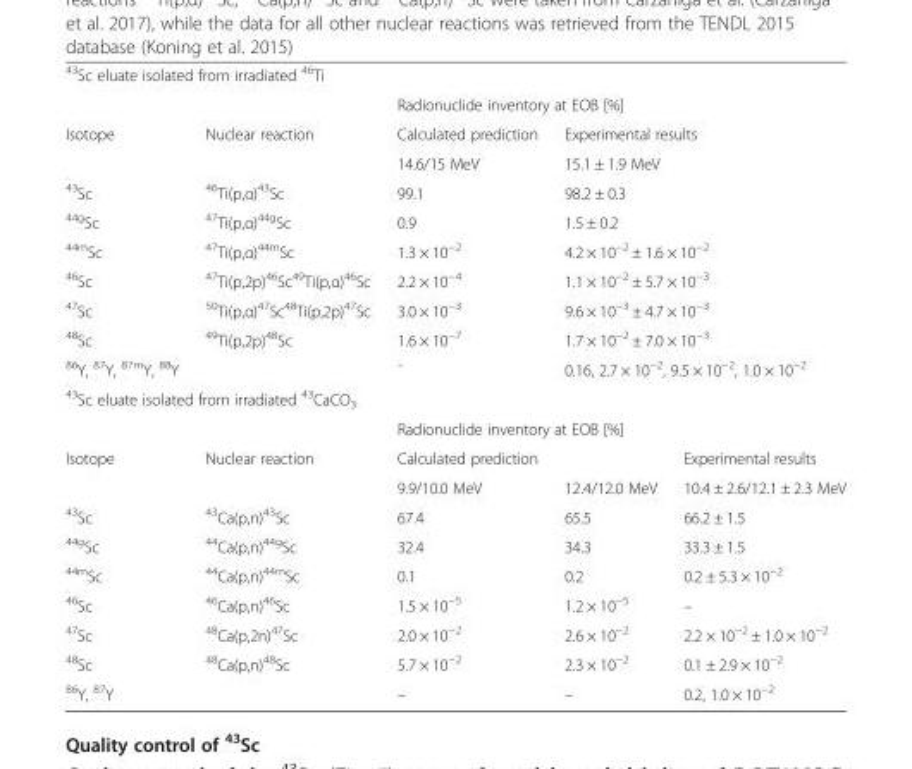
<table><tbody><tr><td colspan="5"><sup>43</sup>Sc eluate isolated from irradiated <sup>46</sup>Ti</td></tr><tr><td></td><td></td><td colspan="3">Radionuclide inventory at EOB [%]</td></tr><tr><td rowspan="2">Isotope</td><td>Nuclear reaction</td><td>Calculated prediction</td><td colspan="2">Experimental results</td></tr><tr><td></td><td>14.6/15 MeV</td><td colspan="2">15.1 ± 1.9 MeV</td></tr><tr><td><sup>43</sup>Sc</td><td><sup>46</sup>Ti(p,α)<sup>43</sup>Sc</td><td>99.1</td><td colspan="2">98.2 ± 0.3</td></tr><tr><td><sup>44g</sup>Sc</td><td><sup>47</sup>Ti(p,α)<sup>44g</sup>Sc</td><td>0.9</td><td colspan="2">1.5 ± 0.2</td></tr><tr><td><sup>44m</sup>Sc</td><td><sup>47</sup>Ti(p,α)<sup>44m</sup>Sc</td><td>1.3 × 10<sup>−2</sup></td><td colspan="2">4.2 × 10<sup>−2</sup> ± 1.6 × 10<sup>−2</sup></td></tr><tr><td><sup>46</sup>Sc</td><td><sup>47</sup>Ti(p,2p)<sup>46</sup>Sc<sup>49</sup>Ti(p,α)<sup>46</sup>Sc</td><td>2.2 × 10<sup>−4</sup></td><td colspan="2">1.1 × 10<sup>−2</sup> ± 5.7 × 10<sup>−3</sup></td></tr><tr><td><sup>47</sup>Sc</td><td><sup>50</sup>Ti(p,α)<sup>47</sup>Sc<sup>48</sup>Ti(p,2p)<sup>47</sup>Sc</td><td>3.0 × 10<sup>−3</sup></td><td colspan="2">9.6 × 10<sup>−3</sup> ± 4.7 × 10<sup>−3</sup></td></tr><tr><td><sup>48</sup>Sc</td><td><sup>49</sup>Ti(p,2p)<sup>48</sup>Sc</td><td>1.6 × 10<sup>−7</sup></td><td colspan="2">1.7 × 10<sup>−2</sup> ± 7.0 × 10<sup>−3</sup></td></tr><tr><td><sup>86</sup>Y, <sup>87</sup>Y, <sup>87m</sup>Y, <sup>88</sup>Y</td><td></td><td><sup>–</sup></td><td colspan="2">0.16, 2.7 × 10<sup>−2</sup>, 9.5 × 10<sup>−2</sup>, 1.0 × 10<sup>−2</sup></td></tr><tr><td colspan="5"><sup>43</sup>Sc eluate isolated from irradiated <sup>43</sup>CaCO<sub>3</sub></td></tr><tr><td></td><td></td><td colspan="3">Radionuclide inventory at EOB [%]</td></tr><tr><td rowspan="2">Isotope</td><td>Nuclear reaction</td><td colspan="2">Calculated prediction</td><td>Experimental results</td></tr><tr><td></td><td>9.9/10.0 MeV</td><td>12.4/12.0 MeV</td><td>10.4 ± 2.6/12.1 ± 2.3 MeV</td></tr><tr><td><sup>43</sup>Sc</td><td><sup>43</sup>Ca(p,n)<sup>43</sup>Sc</td><td>67.4</td><td>65.5</td><td>66.2 ± 1.5</td></tr><tr><td><sup>44g</sup>Sc</td><td><sup>44</sup>Ca(p,n)<sup>44g</sup>Sc</td><td>32.4</td><td>34.3</td><td>33.3 ± 1.5</td></tr><tr><td><sup>44m</sup>Sc</td><td><sup>44</sup>Ca(p,n)<sup>44m</sup>Sc</td><td>0.1</td><td>0.2</td><td>0.2 ± 5.3 × 10<sup>−2</sup></td></tr><tr><td><sup>46</sup>Sc</td><td><sup>46</sup>Ca(p,n)<sup>46</sup>Sc</td><td>1.5 × 10<sup>−5</sup></td><td>1.2 × 10<sup>−5</sup></td><td>–</td></tr><tr><td><sup>47</sup>Sc</td><td><sup>48</sup>Ca(p,2n)<sup>47</sup>Sc</td><td>2.0 × 10<sup>−2</sup></td><td>2.6 × 10<sup>−2</sup></td><td>2.2 × 10<sup>−2</sup> ± 1.0 × 10<sup>−2</sup></td></tr><tr><td><sup>48</sup>Sc</td><td><sup>48</sup>Ca(p,n)<sup>48</sup>Sc</td><td>5.7 × 10<sup>−2</sup></td><td>2.3 × 10<sup>−2</sup></td><td>0.1 ± 2.9 × 10<sup>−2</sup></td></tr><tr><td><sup>86</sup>Y, <sup>87</sup>Y</td><td></td><td>–</td><td>–</td><td>0.2, 1.0 × 10<sup>−2</sup></td></tr></tbody></table>